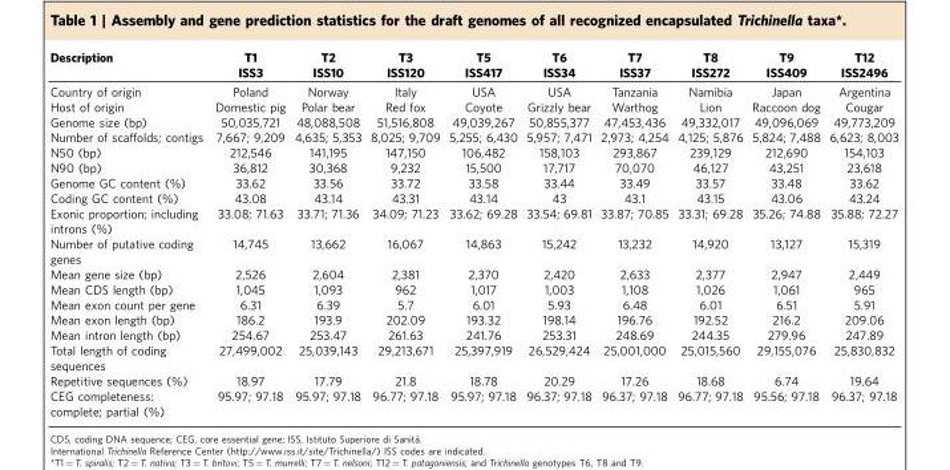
<table><thead><tr><td>Description</td><td>T1 ISS3</td><td>T2 ISS10</td><td>T3 ISS120</td><td>T5 ISS417</td><td>T6 ISS34</td><td>T7 ISS37</td><td>T8 ISS272</td><td>T9 ISS409</td><td>T12 ISS2496</td></tr></thead><tbody><tr><td>Country of origin</td><td>Poland</td><td>Norway</td><td>Italy</td><td>USA</td><td>USA</td><td>Tanzania</td><td>Namibia</td><td>Japan</td><td>Argentina</td></tr><tr><td>Host of origin</td><td>Domestic pig</td><td>Polar bear</td><td>Red fox</td><td>Coyote</td><td>Grizzly bear</td><td>Warthog</td><td>Lion</td><td>Raccoon dog</td><td>Cougar</td></tr><tr><td>Genome size (bp)</td><td>50,035,721</td><td>48,088,508</td><td>51,516,808</td><td>49,039,267</td><td>50,855,377</td><td>47,453,436</td><td>49,332,017</td><td>49,096,069</td><td>49,773,209</td></tr><tr><td>Number of scaffolds; contigs</td><td>7,667; 9,209</td><td>4,635; 5,353</td><td>8,025; 9,709</td><td>5,255; 6,430</td><td>5,957; 7,471</td><td>2,973; 4,254</td><td>4,125; 5,876</td><td>5,824; 7,488</td><td>6,623; 8,003</td></tr><tr><td>N50 (bp)</td><td>212,546</td><td>141,195</td><td>147,150</td><td>106,482</td><td>158,103</td><td>293,867</td><td>239,129</td><td>212,690</td><td>154,103</td></tr><tr><td>N90 (bp)</td><td>36,812</td><td>30,368</td><td>9,232</td><td>15,500</td><td>17,717</td><td>70,070</td><td>46,127</td><td>43,251</td><td>23,618</td></tr><tr><td>Genome GC content (%)</td><td>33.62</td><td>33.56</td><td>33.72</td><td>33.58</td><td>33.44</td><td>33.49</td><td>33.57</td><td>33.48</td><td>33.62</td></tr><tr><td>Coding GC content (%)</td><td>43.08</td><td>43.14</td><td>43.31</td><td>43.14</td><td>43</td><td>43.1</td><td>43.15</td><td>43.06</td><td>43.24</td></tr><tr><td>Exonic proportion; including introns (%)</td><td>33.08; 71.63</td><td>33.71; 71.36</td><td>34.09; 71.23</td><td>33.62; 69.28</td><td>33.54; 69.81</td><td>33.87; 70.85</td><td>33.31; 69.28</td><td>35.26; 74.88</td><td>35.88; 72.27</td></tr><tr><td>Number of putative coding genes</td><td>14,745</td><td>13,662</td><td>16,067</td><td>14,863</td><td>15,242</td><td>13,232</td><td>14,920</td><td>13,127</td><td>15,319</td></tr><tr><td>Mean gene size (bp)</td><td>2,526</td><td>2,604</td><td>2,381</td><td>2,370</td><td>2,420</td><td>2,633</td><td>2,377</td><td>2,947</td><td>2,449</td></tr><tr><td>Mean CDS length (bp)</td><td>1,045</td><td>1,093</td><td>962</td><td>1,017</td><td>1,003</td><td>1,108</td><td>1,026</td><td>1,061</td><td>965</td></tr><tr><td>Mean exon count per gene</td><td>6.31</td><td>6.39</td><td>5.7</td><td>6.01</td><td>5.93</td><td>6.48</td><td>6.01</td><td>6.51</td><td>5.91</td></tr><tr><td>Mean exon length (bp)</td><td>186.2</td><td>193.9</td><td>202.09</td><td>193.32</td><td>198.14</td><td>196.76</td><td>192.52</td><td>216.2</td><td>209.06</td></tr><tr><td>Mean intron length (bp)</td><td>254.67</td><td>253.47</td><td>261.63</td><td>241.76</td><td>253.31</td><td>248.69</td><td>244.35</td><td>279.96</td><td>247.89</td></tr><tr><td>Total length of coding sequences</td><td>27,499,002</td><td>25,039,143</td><td>29,213,671</td><td>25,397,919</td><td>26,529,424</td><td>25,001,000</td><td>25,015,560</td><td>29,155,076</td><td>25,830,832</td></tr><tr><td>Repetitive sequences (%)</td><td>18.97</td><td>17.79</td><td>21.8</td><td>18.78</td><td>20.29</td><td>17.26</td><td>18.68</td><td>6.74</td><td>19.64</td></tr><tr><td>CEG completeness: complete; partial (%)</td><td>95.97; 97.18</td><td>95.97; 97.18</td><td>96.77; 97.18</td><td>95.97; 97.18</td><td>96.37; 97.18</td><td>96.37; 97.18</td><td>96.77; 97.18</td><td>95.56; 97.18</td><td>96.37; 97.18</td></tr></tbody></table>